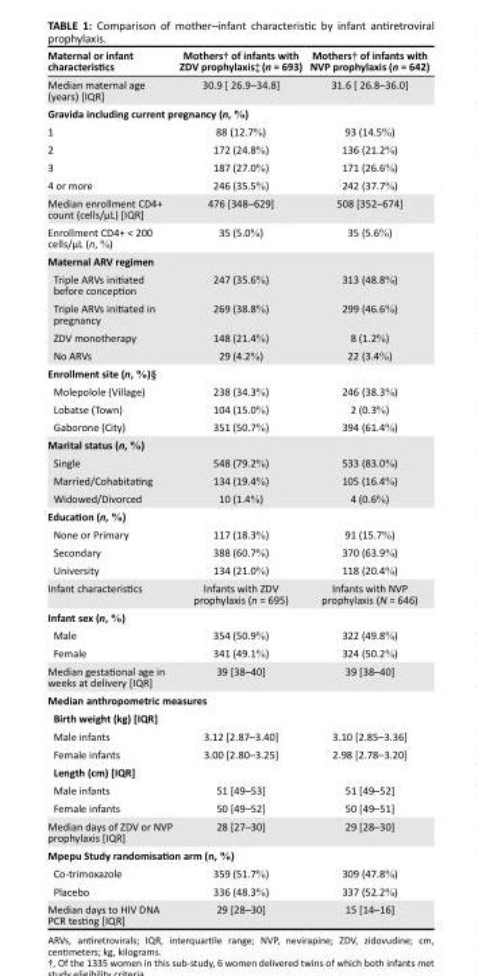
<table><thead><tr><td>Maternal or infant characteristics</td><td>Mothers† of infants with ZDV prophylaxis‡ (n = 693)</td><td>Mothers† of infants with NVP prophylaxis (n = 642)</td></tr></thead><tbody><tr><td>Median maternal age (years) [IQR]</td><td>30.9 [ 26.9–34.8]</td><td>31.6 [ 26.8–36.0]</td></tr><tr><td colspan="3">Gravida including current pregnancy (n, %)</td></tr><tr><td>1</td><td>88 (12.7%)</td><td>93 (14.5%)</td></tr><tr><td>2</td><td>172 (24.8%)</td><td>136 (21.2%)</td></tr><tr><td>3</td><td>187 (27.0%)</td><td>171 (26.6%)</td></tr><tr><td>4 or more</td><td>246 (35.5%)</td><td>242 (37.7%)</td></tr><tr><td>Median enrollment CD4+ count (cells/µL) [IQR]</td><td>476 [348–629]</td><td>508 [352–674]</td></tr><tr><td>Enrollment CD4+ &lt; 200 cells/µL (n, %)</td><td>35 (5.0%)</td><td>35 (5.6%)</td></tr><tr><td colspan="3">Maternal ARV regimen</td></tr><tr><td>Triple ARVs initiated before conception</td><td>247 (35.6%)</td><td>313 (48.8%)</td></tr><tr><td>Triple ARVs initiated in pregnancy</td><td>269 (38.8%)</td><td>299 (46.6%)</td></tr><tr><td>ZDV monotherapy</td><td>148 (21.4%)</td><td>8 (1.2%)</td></tr><tr><td>No ARVs</td><td>29 (4.2%)</td><td>22 (3.4%)</td></tr><tr><td colspan="3">Enrollment site (n, %)§</td></tr><tr><td>Molepolole (Village)</td><td>238 (34.3%)</td><td>246 (38.3%)</td></tr><tr><td>Lobatse (Town)</td><td>104 (15.0%)</td><td>2 (0.3%)</td></tr><tr><td>Gaborone (City)</td><td>351 (50.7%)</td><td>394 (61.4%)</td></tr><tr><td colspan="3">Marital status (n, %)</td></tr><tr><td>Single</td><td>548 (79.2%)</td><td>533 (83.0%)</td></tr><tr><td>Married/Cohabitating</td><td>134 (19.4%)</td><td>105 (16.4%)</td></tr><tr><td>Widowed/Divorced</td><td>10 (1.4%)</td><td>4 (0.6%)</td></tr><tr><td colspan="3">Education (n, %)</td></tr><tr><td>None or Primary</td><td>117 (18.3%)</td><td>91 (15.7%)</td></tr><tr><td>Secondary</td><td>388 (60.7%)</td><td>370 (63.9%)</td></tr><tr><td>University</td><td>134 (21.0%)</td><td>118 (20.4%)</td></tr><tr><td>Infant characteristics</td><td>Infants with ZDV prophylaxis (n = 695)</td><td>Infants with NVP prophylaxis (N = 646)</td></tr><tr><td colspan="3">Infant sex (n, %)</td></tr><tr><td>Male</td><td>354 (50.9%)</td><td>322 (49.8%)</td></tr><tr><td>Female</td><td>341 (49.1%)</td><td>324 (50.2%)</td></tr><tr><td>Median gestational age in weeks at delivery [IQR]</td><td>39 [38–40]</td><td>39 [38–40]</td></tr><tr><td colspan="3">Median anthropometric measures</td></tr><tr><td colspan="3">Birth weight (kg) [IQR]</td></tr><tr><td>Male infants</td><td>3.12 [2.87–3.40]</td><td>3.10 [2.85–3.36]</td></tr><tr><td>Female infants</td><td>3.00 [2.80–3.25]</td><td>2.98 [2.78–3.20]</td></tr><tr><td colspan="3">Length (cm) [IQR]</td></tr><tr><td>Male infants</td><td>51 [49–53]</td><td>51 [49–52]</td></tr><tr><td>Female infants</td><td>50 [49–52]</td><td>50 [49–51]</td></tr><tr><td>Median days of ZDV or NVP prophylaxis [IQR]</td><td>28 [27–30]</td><td>29 [28–30]</td></tr><tr><td colspan="3">Mpepu Study randomisation arm (n, %)</td></tr><tr><td>Co-trimoxazole</td><td>359 (51.7%)</td><td>309 (47.8%)</td></tr><tr><td>Placebo</td><td>336 (48.3%)</td><td>337 (52.2%)</td></tr><tr><td>Median days to HIV DNA PCR testing [IQR]</td><td>29 [28–30]</td><td>15 [14–16]</td></tr></tbody></table>